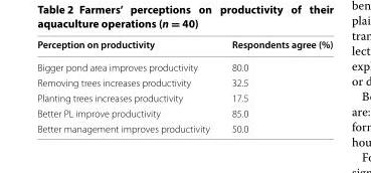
<table><thead><tr><td>Perception on productivity</td><td>Respondents agree (%)</td></tr></thead><tbody><tr><td>Bigger pond area improves productivity</td><td>80.0</td></tr><tr><td>Removing trees increases productivity</td><td>32.5</td></tr><tr><td>Planting trees increases productivity</td><td>17.5</td></tr><tr><td>Better PL improve productivity</td><td>85.0</td></tr><tr><td>Better management improves productivity</td><td>50.0</td></tr></tbody></table>